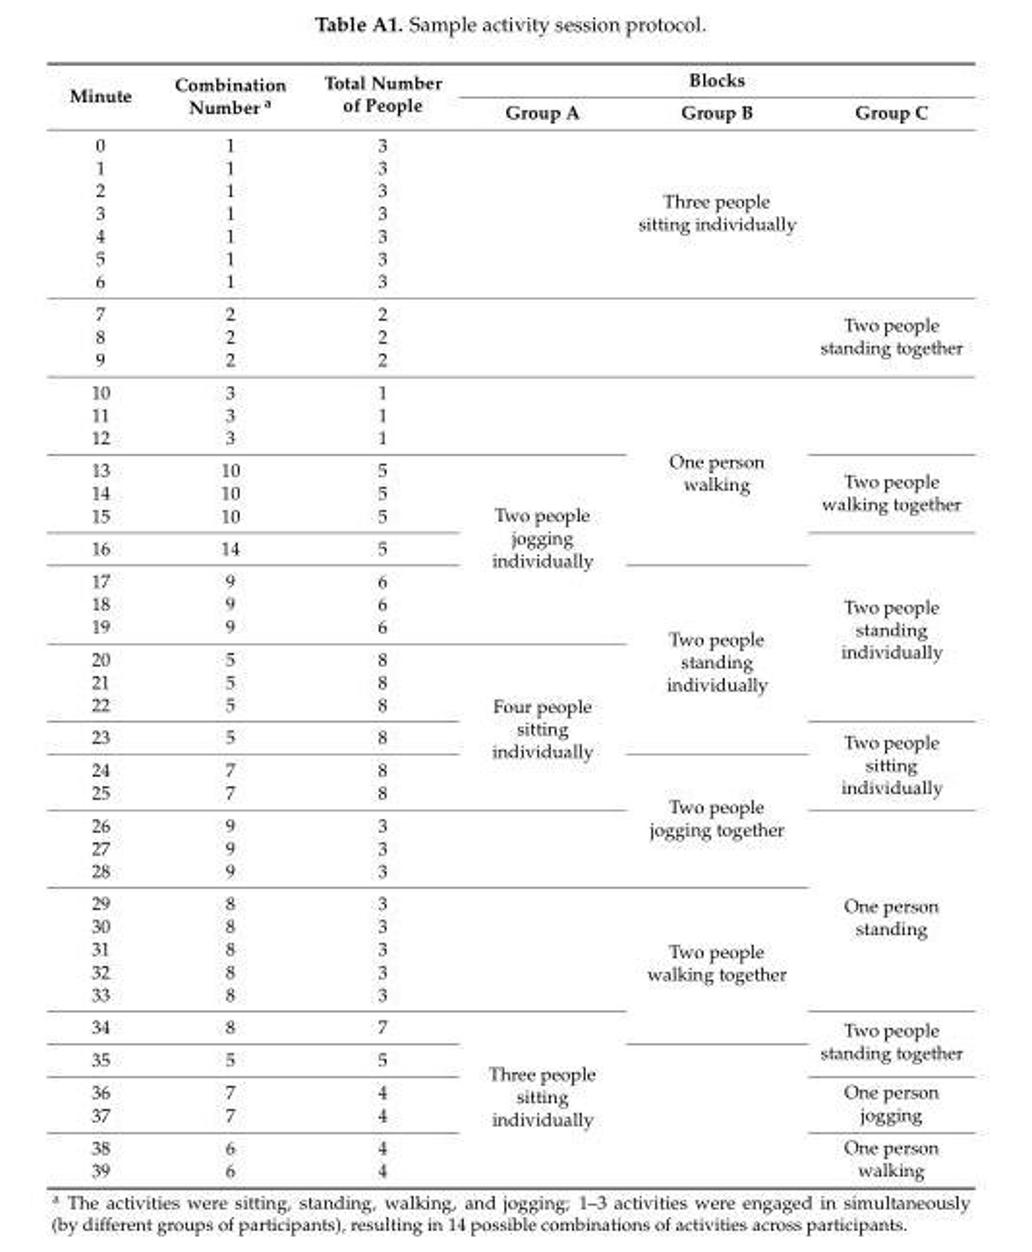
<table><thead><tr><td rowspan="2">Minute</td><td rowspan="2">Combination Number <sup>a</sup></td><td rowspan="2">Total Number of People</td><td colspan="3">Blocks</td></tr><tr><td>Group A</td><td>Group B</td><td>Group C</td></tr></thead><tbody><tr><td>0</td><td>1</td><td>3</td><td></td><td rowspan="7">Three people sitting individually</td><td></td></tr><tr><td>1</td><td>1</td><td>3</td><td></td><td></td></tr><tr><td>2</td><td>1</td><td>3</td><td></td><td></td></tr><tr><td>3</td><td>1</td><td>3</td><td></td><td></td></tr><tr><td>4</td><td>1</td><td>3</td><td></td><td></td></tr><tr><td>5</td><td>1</td><td>3</td><td></td><td></td></tr><tr><td>6</td><td>1</td><td>3</td><td></td><td></td></tr><tr><td>7</td><td>2</td><td>2</td><td></td><td></td><td rowspan="3">Two people standing together</td></tr><tr><td>8</td><td>2</td><td>2</td><td></td><td></td></tr><tr><td>9</td><td>2</td><td>2</td><td></td><td></td></tr><tr><td>10</td><td>3</td><td>1</td><td></td><td rowspan="7">One person walking</td><td></td></tr><tr><td>11</td><td>3</td><td>1</td><td></td><td></td></tr><tr><td>12</td><td>3</td><td>1</td><td></td><td></td></tr><tr><td>13</td><td>10</td><td>5</td><td rowspan="7">Two people jogging individually</td><td rowspan="3">Two people walking together</td></tr><tr><td>14</td><td>10</td><td>5</td></tr><tr><td>15</td><td>10</td><td>5</td></tr><tr><td>16</td><td>14</td><td>5</td><td rowspan="7">Two people standing individually</td></tr><tr><td>17</td><td>9</td><td>6</td><td rowspan="7">Two people standing individually</td></tr><tr><td>18</td><td>9</td><td>6</td></tr><tr><td>19</td><td>9</td><td>6</td></tr><tr><td>20</td><td>5</td><td>8</td><td rowspan="6">Four people sitting individually</td></tr><tr><td>21</td><td>5</td><td>8</td></tr><tr><td>22</td><td>5</td><td>8</td></tr><tr><td>23</td><td>5</td><td>8</td><td rowspan="3">Two people sitting individually</td></tr><tr><td>24</td><td>7</td><td>8</td><td rowspan="5">Two people jogging together</td></tr><tr><td>25</td><td>7</td><td>8</td></tr><tr><td>26</td><td>9</td><td>3</td><td></td><td rowspan="8">One person standing</td></tr><tr><td>27</td><td>9</td><td>3</td><td></td></tr><tr><td>28</td><td>9</td><td>3</td><td></td></tr><tr><td>29</td><td>8</td><td>3</td><td></td><td rowspan="6">Two people walking together</td></tr><tr><td>30</td><td>8</td><td>3</td><td></td></tr><tr><td>31</td><td>8</td><td>3</td><td></td></tr><tr><td>32</td><td>8</td><td>3</td><td></td></tr><tr><td>33</td><td>8</td><td>3</td><td></td></tr><tr><td>34</td><td>8</td><td>7</td><td rowspan="6">Three people sitting individually</td><td rowspan="2">Two people standing together</td></tr><tr><td>35</td><td>5</td><td>5</td><td></td></tr><tr><td>36</td><td>7</td><td>4</td><td></td><td rowspan="2">One person jogging</td></tr><tr><td>37</td><td>7</td><td>4</td><td></td></tr><tr><td>38</td><td>6</td><td>4</td><td></td><td rowspan="2">One person walking</td></tr><tr><td>39</td><td>6</td><td>4</td><td></td></tr></tbody></table>